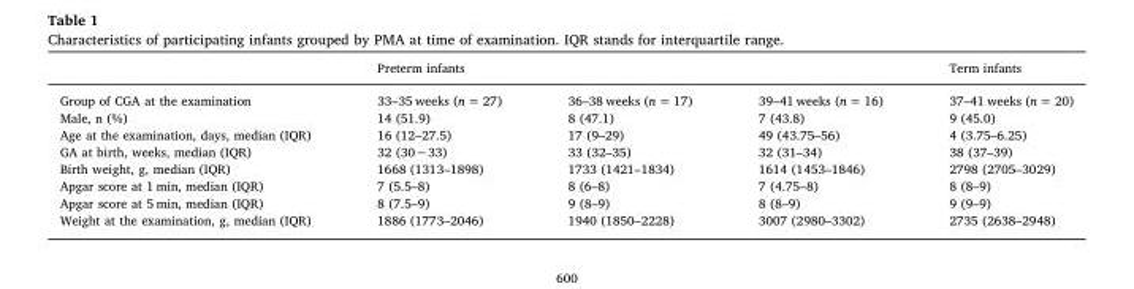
<table><thead><tr><td></td><td>Preterm infants</td><td></td><td></td><td>Term infants</td></tr></thead><tbody><tr><td>Group of CGA at the examination</td><td>33–35 weeks (n = 27)</td><td>36–38 weeks (n = 17)</td><td>39–41 weeks (n = 16)</td><td>37–41 weeks (n = 20)</td></tr><tr><td>Male, n (%)</td><td>14 (51.9)</td><td>8 (47.1)</td><td>7 (43.8)</td><td>9 (45.0)</td></tr><tr><td>Age at the examination, days, median (IQR)</td><td>16 (12–27.5)</td><td>17 (9–29)</td><td>49 (43.75–56)</td><td>4 (3.75–6.25)</td></tr><tr><td>GA at birth, weeks, median (IQR)</td><td>32 (30−33)</td><td>33 (32–35)</td><td>32 (31–34)</td><td>38 (37–39)</td></tr><tr><td>Birth weight, g, median (IQR)</td><td>1668 (1313–1898)</td><td>1733 (1421–1834)</td><td>1614 (1453–1846)</td><td>2798 (2705–3029)</td></tr><tr><td>Apgar score at 1 min, median (IQR)</td><td>7 (5.5–8)</td><td>8 (6–8)</td><td>7 (4.75–8)</td><td>8 (8–9)</td></tr><tr><td>Apgar score at 5 min, median (IQR)</td><td>8 (7.5–9)</td><td>9 (8–9)</td><td>8 (8–9)</td><td>9 (9–9)</td></tr><tr><td>Weight at the examination, g, median (IQR)</td><td>1886 (1773–2046)</td><td>1940 (1850–2228)</td><td>3007 (2980–3302)</td><td>2735 (2638–2948)</td></tr></tbody></table>